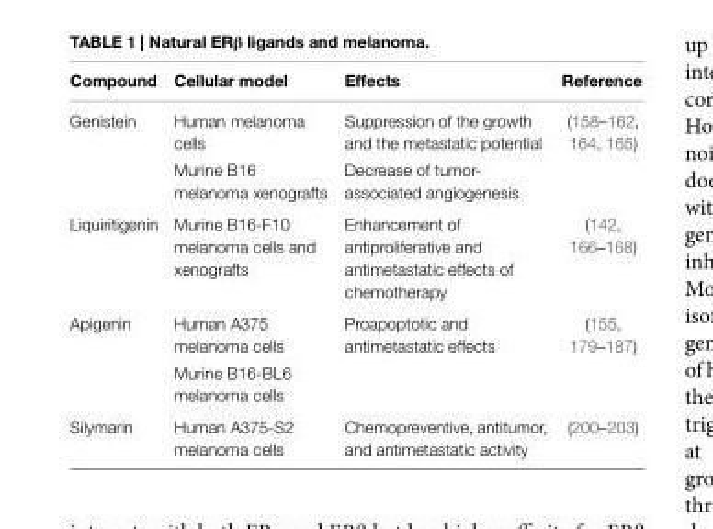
<table><thead><tr><td>Compound</td><td>Cellular model</td><td>effects</td><td>Reference</td></tr></thead><tbody><tr><td rowspan="2">Genistein</td><td>Human melanoma cells</td><td>Suppression of the growth and the metastatic potential</td><td rowspan="2">(158–162, 164, 165)</td></tr><tr><td>Murine B16 melanoma xenografts</td><td>Decrease of tumor- associated angiogenesis</td></tr><tr><td>Liquiritigenin</td><td>Murine B16-F10 melanoma cells and xenografts</td><td>Enhancement of antiproliferative and antimetastatic effects of chemotherapy</td><td>(142, 166–168)</td></tr><tr><td rowspan="2">Apigenin</td><td>Human A375 melanoma cells</td><td rowspan="2">Proapoptotic and antimetastatic effects</td><td rowspan="2">(155, 179–187)</td></tr><tr><td>Murine B16-BL6 melanoma cells</td></tr><tr><td>Silymarin</td><td>Human A375-S2 melanoma cells</td><td>Chemopreventive, antitumor, and antimetastatic activity</td><td>(200–203)</td></tr></tbody></table>